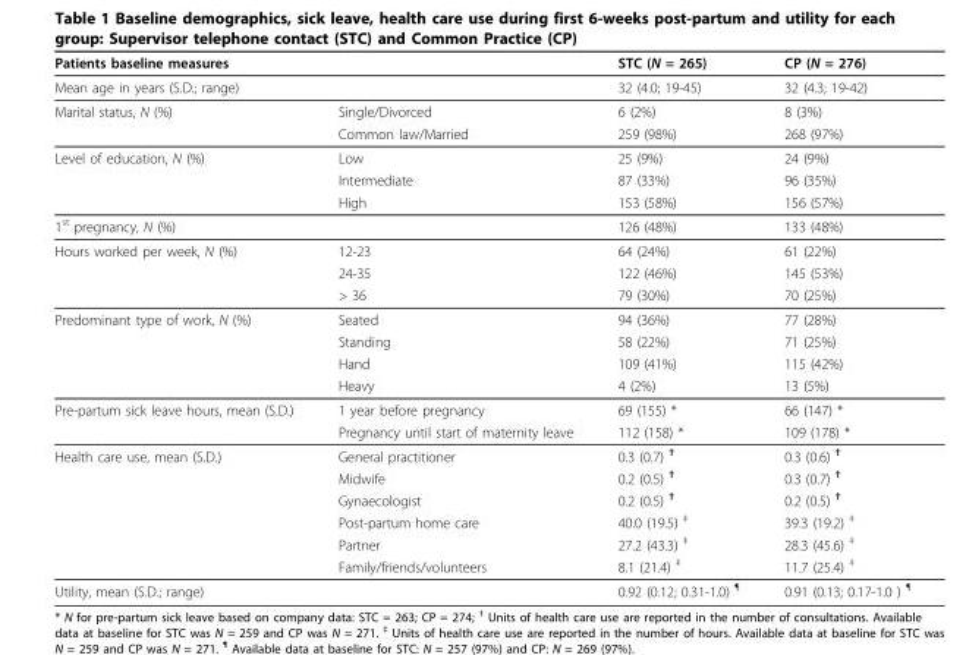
<table><thead><tr><td rowspan="2" colspan="2">Patients baseline measures Mean age in years (S.D.; range)</td><td rowspan="3">STC (N = 265) 32 (4.0; 19-45) 6 (2%)</td><td rowspan="3">CP (N = 276) 32 (4.3; 19-42) 8 (3%)</td></tr><tr></tr><tr><td>Marital status, N (%)</td><td>Single/Divorced</td></tr></thead><tbody><tr><td></td><td>Common law/Married</td><td>259 (98%)</td><td>268 (97%)</td></tr><tr><td rowspan="3">Level of education, N (%)</td><td>Low</td><td>25 (9%)</td><td>24 (9%)</td></tr><tr><td>Intermediate</td><td>87 (33%)</td><td>96 (35%)</td></tr><tr><td>High</td><td>153 (58%)</td><td>156 (57%)</td></tr><tr><td colspan="2">1<sup>st</sup> pregnancy, N (%)</td><td>126 (48%)</td><td>133 (48%)</td></tr><tr><td rowspan="3">Hours worked per week, N (%)</td><td>12-23</td><td>64 (24%)</td><td>61 (22%)</td></tr><tr><td>24-35</td><td>122 (46%)</td><td>145 (53%)</td></tr><tr><td>&gt; 36</td><td>79 (30%)</td><td>70 (25%)</td></tr><tr><td rowspan="4">Predominant type of work, N (%)</td><td>Seated</td><td>94 (36%)</td><td>77 (28%)</td></tr><tr><td>Standing</td><td>58 (22%)</td><td>71 (25%)</td></tr><tr><td>Hand</td><td>109 (41%)</td><td>115 (42%)</td></tr><tr><td>Heavy</td><td>4 (2%)</td><td>13 (5%)</td></tr><tr><td rowspan="2">Pre-partum sick leave hours, mean (S.D.)</td><td>1 year before pregnancy</td><td>69 (155) *</td><td>66 (147) *</td></tr><tr><td>Pregnancy until start of maternity leave</td><td>112 (158) *</td><td>109 (178) *</td></tr><tr><td rowspan="6">Health care use, mean (S.D.)</td><td>General practitioner</td><td>0.3 (0.7) <sup>†</sup></td><td>0.3 (0.6) <sup>†</sup></td></tr><tr><td>Midwife</td><td>0.2 (0.5) <sup>†</sup></td><td>0.3 (0.7) <sup>†</sup></td></tr><tr><td>Gynaecologist</td><td>0.2 (0.5) <sup>†</sup></td><td>0.2 (0.5) <sup>†</sup></td></tr><tr><td>Post-partum home care</td><td>40.0 (19.5) <sup>‡</sup></td><td>39.3 (19.2) <sup>‡</sup></td></tr><tr><td>Partner</td><td>27.2 (43.3) <sup>‡</sup></td><td>28.3 (45.6) <sup>‡</sup></td></tr><tr><td>Family/friends/volunteers</td><td>8.1 (21.4) <sup>‡</sup></td><td>11.7 (25.4) <sup>‡</sup></td></tr><tr><td colspan="2">Utility, mean (S.D.; range)</td><td>0.92 (0.12; 0.31-1.0) <sup>¶</sup></td><td>0.91 (0.13; 0.17-1.0 ) <sup>¶</sup></td></tr></tbody></table>